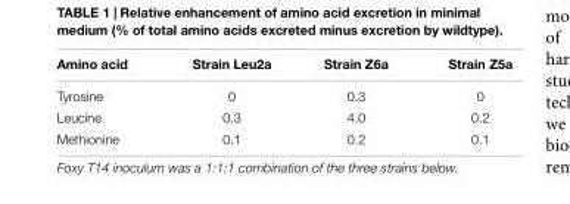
<table><thead><tr><td>Amino acid</td><td>Strain Leu2a</td><td>Strain Z6a</td><td>Strain Z5a</td></tr></thead><tbody><tr><td>Tyrosine</td><td>0</td><td>0.3</td><td>0</td></tr><tr><td>Leucine</td><td>0.3</td><td>4.0</td><td>0.2</td></tr><tr><td>Methionine</td><td>0.1</td><td>0.2</td><td>0.1</td></tr></tbody></table>